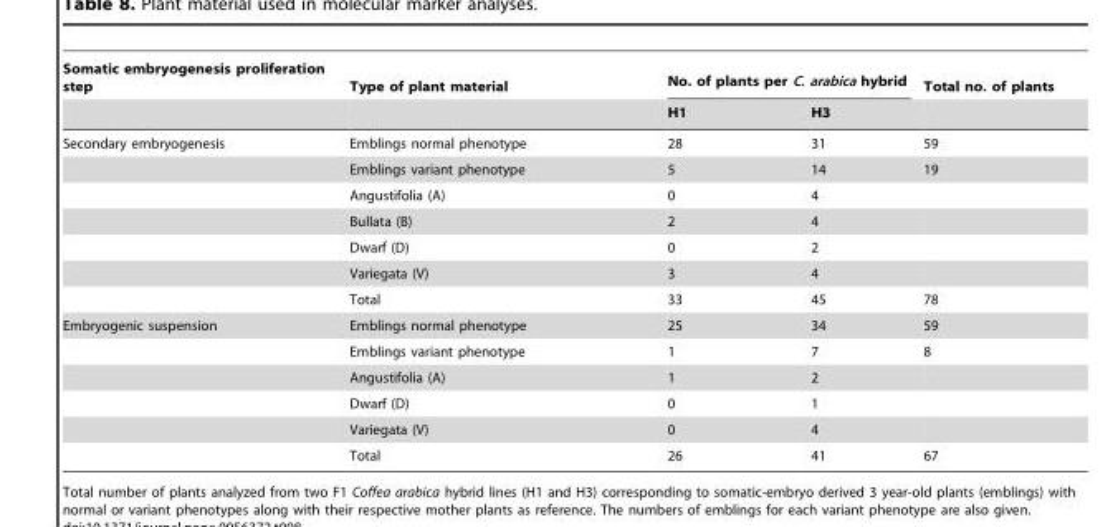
<table><thead><tr><td rowspan="2">Somatic embryogenesis proliferation step</td><td rowspan="2">Type of plant material</td><td colspan="2">No. of plants per C. arabica hybrid</td><td rowspan="2">Total no. of plants</td></tr><tr><td>H1</td><td>H3</td></tr></thead><tbody><tr><td rowspan="7">Secondary embryogenesis</td><td>Emblings normal phenotype</td><td>28</td><td>31</td><td>59</td></tr><tr><td>Emblings variant phenotype</td><td>5</td><td>14</td><td>19</td></tr><tr><td>Angustifolia (A)</td><td>0</td><td>4</td><td></td></tr><tr><td>Bullata (B)</td><td>2</td><td>4</td><td></td></tr><tr><td>Dwarf (D)</td><td>0</td><td>2</td><td></td></tr><tr><td>Variegata (V)</td><td>3</td><td>4</td><td></td></tr><tr><td>Total</td><td>33</td><td>45</td><td>78</td></tr><tr><td rowspan="6">Embryogenic suspension</td><td>Emblings normal phenotype</td><td>25</td><td>34</td><td>59</td></tr><tr><td>Emblings variant phenotype</td><td>1</td><td>7</td><td>8</td></tr><tr><td>Angustifolia (A)</td><td>1</td><td>2</td><td></td></tr><tr><td>Dwarf (D)</td><td>0</td><td>1</td><td></td></tr><tr><td>Variegata (V)</td><td>0</td><td>4</td><td></td></tr><tr><td>Total</td><td>26</td><td>41</td><td>67</td></tr></tbody></table>